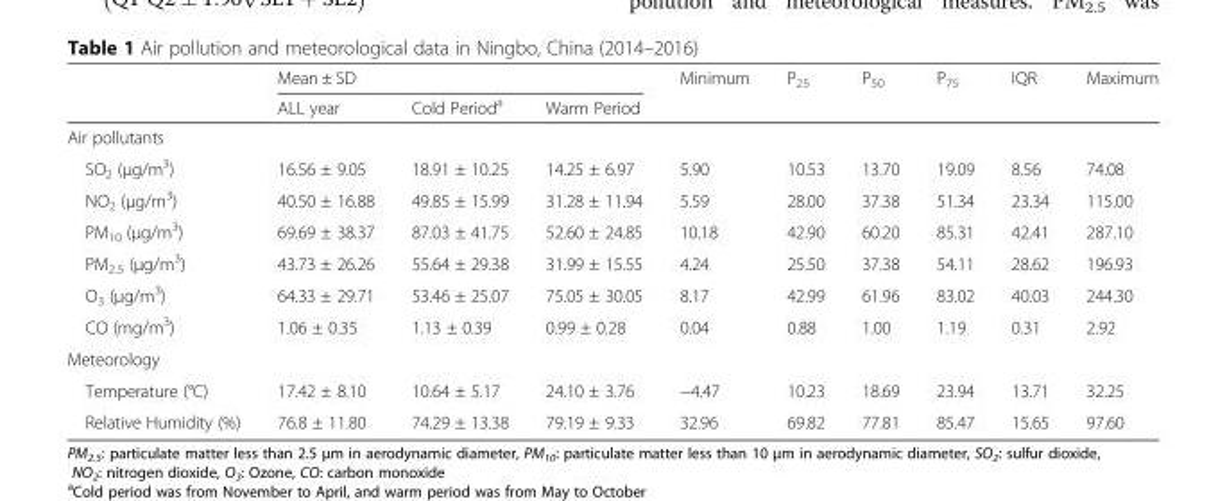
<table><thead><tr><td rowspan="2"></td><td colspan="3">Mean ± SD</td><td rowspan="2">Minimum</td><td rowspan="2">P<sub>25</sub></td><td rowspan="2">P<sub>50</sub></td><td rowspan="2">P<sub>75</sub></td><td rowspan="2">IQR</td><td rowspan="2">Maximum</td></tr><tr><td>ALL year</td><td>Cold Period<sup>a</sup></td><td>Warm Period</td></tr></thead><tbody><tr><td colspan="10">Air pollutants</td></tr><tr><td>SO<sub>2</sub> (μg/m<sup>3</sup>)</td><td>16.56 ± 9.05</td><td>18.91 ± 10.25</td><td>14.25 ± 6.97</td><td>5.90</td><td>10.53</td><td>13.70</td><td>19.09</td><td>8.56</td><td>74.08</td></tr><tr><td>NO<sub>2</sub> (μg/m<sup>3</sup>)</td><td>40.50 ± 16.88</td><td>49.85 ± 15.99</td><td>31.28 ± 11.94</td><td>5.59</td><td>28.00</td><td>37.38</td><td>51.34</td><td>23.34</td><td>115.00</td></tr><tr><td>PM<sub>10</sub> (μg/m<sup>3</sup>)</td><td>69.69 ± 38.37</td><td>87.03 ± 41.75</td><td>52.60 ± 24.85</td><td>10.18</td><td>42.90</td><td>60.20</td><td>85.31</td><td>42.41</td><td>287.10</td></tr><tr><td>PM<sub>2.5</sub> (μg/m<sup>3</sup>)</td><td>43.73 ± 26.26</td><td>55.64 ± 29.38</td><td>31.99 ± 15.55</td><td>4.24</td><td>25.50</td><td>37.38</td><td>54.11</td><td>28.62</td><td>196.93</td></tr><tr><td>O<sub>3</sub> (μg/m<sup>3</sup>)</td><td>64.33 ± 29.71</td><td>53.46 ± 25.07</td><td>75.05 ± 30.05</td><td>8.17</td><td>42.99</td><td>61.96</td><td>83.02</td><td>40.03</td><td>244.30</td></tr><tr><td>CO (mg/m<sup>3</sup>)</td><td>1.06 ± 0.35</td><td>1.13 ± 0.39</td><td>0.99 ± 0.28</td><td>0.04</td><td>0.88</td><td>1.00</td><td>1.19</td><td>0.31</td><td>2.92</td></tr><tr><td colspan="10">Meteorology</td></tr><tr><td>Temperature (°C)</td><td>17.42 ± 8.10</td><td>10.64 ± 5.17</td><td>24.10 ± 3.76</td><td>−4.47</td><td>10.23</td><td>18.69</td><td>23.94</td><td>13.71</td><td>32.25</td></tr><tr><td>Relative Humidity (%)</td><td>76.8 ± 11.80</td><td>74.29 ± 13.38</td><td>79.19 ± 9.33</td><td>32.96</td><td>69.82</td><td>77.81</td><td>85.47</td><td>15.65</td><td>97.60</td></tr></tbody></table>